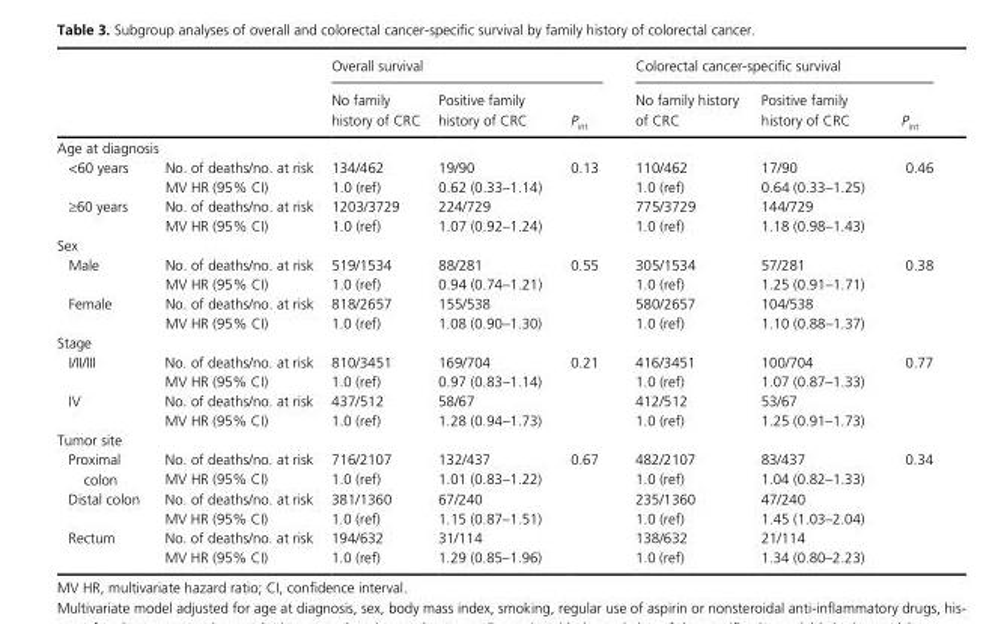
<table><thead><tr><td rowspan="2"></td><td rowspan="2"></td><td colspan="3">Overall survival</td><td colspan="3">Colorectal cancer- specific survival</td></tr><tr><td>No family history of CRC</td><td>Positive family history of CRC</td><td>P<sub>int</sub></td><td>No family history of CRC</td><td>Positive family history of CRC</td><td>P<sub>int</sub></td></tr></thead><tbody><tr><td colspan="8">Age at diagnosis</td></tr><tr><td rowspan="2">&lt;60 years</td><td>No. of deaths/no. at risk</td><td>134/462</td><td>19/90</td><td rowspan="4">0.13</td><td>110/462</td><td>17/90</td><td rowspan="4">0.46</td></tr><tr><td>MV HR (95% CI)</td><td>1.0 (ref)</td><td>0.62 (0.33–1.14)</td><td>1.0 (ref)</td><td>0.64 (0.33–1.25)</td></tr><tr><td rowspan="2">≥60 years</td><td>No. of deaths/no. at risk</td><td>1203/3729</td><td>224/729</td><td>775/3729</td><td>144/729</td></tr><tr><td>MV HR (95% CI)</td><td>1.0 (ref)</td><td>1.07 (0.92–1.24)</td><td>1.0 (ref)</td><td>1.18 (0.98–1.43)</td></tr><tr><td colspan="8">Sex</td></tr><tr><td rowspan="2">Male</td><td>No. of deaths/no. at risk</td><td>519/1534</td><td>88/281</td><td rowspan="4">0.55</td><td>305/1534</td><td>57/281</td><td rowspan="4">0.38</td></tr><tr><td>MV HR (95% CI)</td><td>1.0 (ref)</td><td>0.94 (0.74–1.21)</td><td>1.0 (ref)</td><td>1.25 (0.91–1.71)</td></tr><tr><td rowspan="2">Female</td><td>No. of deaths/no. at risk</td><td>818/2657</td><td>155/538</td><td>580/2657</td><td>104/538</td></tr><tr><td>MV HR (95% CI)</td><td>1.0 (ref)</td><td>1.08 (0.90–1.30)</td><td>1.0 (ref)</td><td>1.10 (0.88–1.37)</td></tr><tr><td colspan="8">Stage</td></tr><tr><td rowspan="2">I/II/III</td><td>No. of deaths/no. at risk</td><td>810/3451</td><td>169/704</td><td rowspan="4">0.21</td><td>416/3451</td><td>100/704</td><td rowspan="4">0.77</td></tr><tr><td>MV HR (95% CI)</td><td>1.0 (ref)</td><td>0.97 (0.83–1.14)</td><td>1.0 (ref)</td><td>1.07 (0.87–1.33)</td></tr><tr><td rowspan="2">IV</td><td>No. of deaths/no. at risk</td><td>437/512</td><td>58/67</td><td>412/512</td><td>53/67</td></tr><tr><td>MV HR (95% CI)</td><td>1.0 (ref)</td><td>1.28 (0.94–1.73)</td><td>1.0 (ref)</td><td>1.25 (0.91–1.73)</td></tr><tr><td colspan="8">Tumor site</td></tr><tr><td rowspan="2">Proximal colon</td><td>No. of deaths/no. at risk</td><td>716/2107</td><td>132/437</td><td rowspan="6">0.67</td><td>482/2107</td><td>83/437</td><td rowspan="6">0.34</td></tr><tr><td>MV HR (95% CI)</td><td>1.0 (ref)</td><td>1.01 (0.83–1.22)</td><td>1.0 (ref)</td><td>1.04 (0.82–1.33)</td></tr><tr><td rowspan="2">Distal colon</td><td>No. of deaths/no. at risk</td><td>381/1360</td><td>67/240</td><td>235/1360</td><td>47/240</td></tr><tr><td>MV HR (95% CI)</td><td>1.0 (ref)</td><td>1.15 (0.87–1.51)</td><td>1.0 (ref)</td><td>1.45 (1.03–2.04)</td></tr><tr><td rowspan="2">Rectum</td><td>No. of deaths/no. at risk</td><td>194/632</td><td>31/114</td><td>138/632</td><td>21/114</td></tr><tr><td>MV HR (95% CI)</td><td>1.0 (ref)</td><td>1.29 (0.85–1.96)</td><td>1.0 (ref)</td><td>1.34 (0.80–2.23)</td></tr></tbody></table>